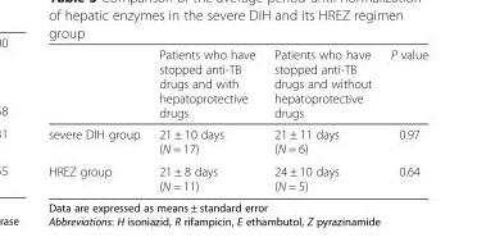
<table><thead><tr><td></td><td>Patients who have stopped anti-TB drugs and with hepatoprotective drugs</td><td>Patients who have stopped anti-TB drugs and without hepatoprotective drugs</td><td>P value</td></tr></thead><tbody><tr><td>severe DIH group</td><td>21 ± 10 days (N = 17)</td><td>21 ± 11 days (N = 6)</td><td>0.97</td></tr><tr><td>HREZ group</td><td>21 ± 8 days (N = 11)</td><td>24 ± 10 days (N = 5)</td><td>0.64</td></tr></tbody></table>